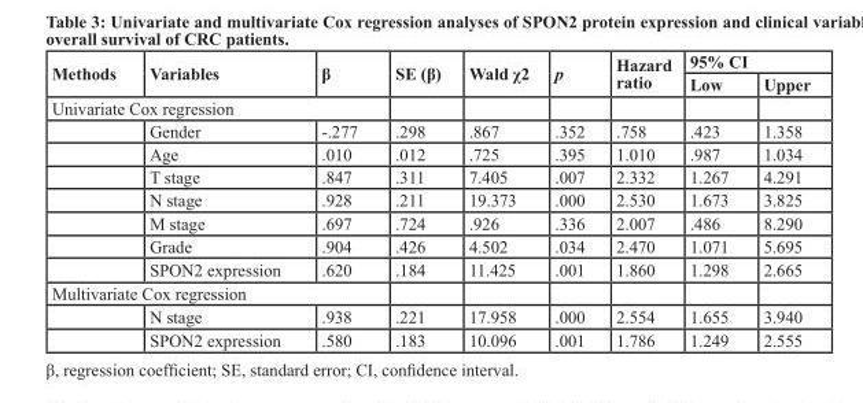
<table><thead><tr><td rowspan="2">Methods</td><td rowspan="2">Variables</td><td rowspan="2">β</td><td rowspan="2">SE (β)</td><td rowspan="2">Wald χ<sup>2</sup></td><td rowspan="2">p</td><td rowspan="2">Hazard ratio</td><td colspan="2">95% CI</td></tr><tr><td>Low</td><td>Upper</td></tr></thead><tbody><tr><td colspan="9">Univariate Cox regression</td></tr><tr><td></td><td>Gender</td><td>-.277</td><td>.298</td><td>.867</td><td>.352</td><td>.758</td><td>.423</td><td>1.358</td></tr><tr><td></td><td>Age</td><td>.010</td><td>.012</td><td>.725</td><td>.395</td><td>1.010</td><td>.987</td><td>1.034</td></tr><tr><td></td><td>T stage</td><td>.847</td><td>.311</td><td>7.405</td><td>.007</td><td>2.332</td><td>1.267</td><td>4.291</td></tr><tr><td></td><td>N stage</td><td>.928</td><td>.211</td><td>19.373</td><td>.000</td><td>2.530</td><td>1.673</td><td>3.825</td></tr><tr><td></td><td>M stage</td><td>.697</td><td>.724</td><td>.926</td><td>.336</td><td>2.007</td><td>.486</td><td>8.290</td></tr><tr><td></td><td>Grade</td><td>.904</td><td>.426</td><td>4.502</td><td>.034</td><td>2.470</td><td>1.071</td><td>5.695</td></tr><tr><td></td><td>SPON2 expression</td><td>.620</td><td>.184</td><td>11.425</td><td>.001</td><td>1.860</td><td>1.298</td><td>2.665</td></tr><tr><td colspan="9">Multivariate Cox regression</td></tr><tr><td></td><td>N stage</td><td>.938</td><td>.221</td><td>17.958</td><td>.000</td><td>2.554</td><td>1.655</td><td>3.940</td></tr><tr><td></td><td>SPON2 expression</td><td>.580</td><td>.183</td><td>10.096</td><td>.001</td><td>1.786</td><td>1.249</td><td>2.555</td></tr></tbody></table>